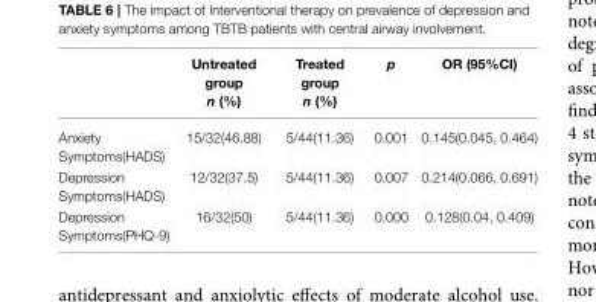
<table><thead><tr><td></td><td>Untreated group n (%)</td><td>Treated group n (%)</td><td>p</td><td>OR (95%CI)</td></tr></thead><tbody><tr><td>Anxiety Symptoms(HADS)</td><td>15/32(46.88)</td><td>5/44(11.36)</td><td>0.001</td><td>0.145(0.045, 0.464)</td></tr><tr><td>Depression Symptoms(HADS)</td><td>12/32(37.5)</td><td>5/44(11.36)</td><td>0.007</td><td>0.214(0.066, 0.691)</td></tr><tr><td>Depression Symptoms(PHQ-9)</td><td>16/32(50)</td><td>5/44(11.36)</td><td>0.000</td><td>0.128(0.04, 0.409)</td></tr></tbody></table>